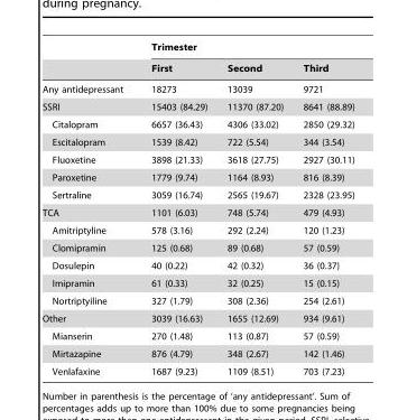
<table><thead><tr><td rowspan="2"></td><td colspan="3">Trimester</td></tr><tr><td>First</td><td>Second</td><td>Third</td></tr></thead><tbody><tr><td>Any antidepressant</td><td>18273</td><td>13039</td><td>9721</td></tr><tr><td>SSRI</td><td>15403 (84.29)</td><td>11370 (87.20)</td><td>8641 (88.89)</td></tr><tr><td>Citalopram</td><td>6657 (36.43)</td><td>4306 (33.02)</td><td>2850 (29.32)</td></tr><tr><td>Escitalopram</td><td>1539 (8.42)</td><td>722 (5.54)</td><td>344 (3.54)</td></tr><tr><td>Fluoxetine</td><td>3898 (21.33)</td><td>3618 (27.75)</td><td>2927 (30.11)</td></tr><tr><td>Paroxetine</td><td>1779 (9.74)</td><td>1164 (8.93)</td><td>816 (8.39)</td></tr><tr><td>Sertraline</td><td>3059 (16.74)</td><td>2565 (19.67)</td><td>2328 (23.95)</td></tr><tr><td>TCA</td><td>1101 (6.03)</td><td>748 (5.74)</td><td>479 (4.93)</td></tr><tr><td>Amitriptyline</td><td>578 (3.16)</td><td>292 (2.24)</td><td>120 (1.23)</td></tr><tr><td>Clomipramin</td><td>125 (0.68)</td><td>89 (0.68)</td><td>57 (0.59)</td></tr><tr><td>Dosulepin</td><td>40 (0.22)</td><td>42 (0.32)</td><td>36 (0.37)</td></tr><tr><td>Imipramin</td><td>61 (0.33)</td><td>32 (0.25)</td><td>15 (0.15)</td></tr><tr><td>Nortriptyiline</td><td>327 (1.79)</td><td>308 (2.36)</td><td>254 (2.61)</td></tr><tr><td>Other</td><td>3039 (16.63)</td><td>1655 (12.69)</td><td>934 (9.61)</td></tr><tr><td>Mianserin</td><td>270 (1.48)</td><td>113 (0.87)</td><td>57 (0.59)</td></tr><tr><td>Mirtazapine</td><td>876 (4.79)</td><td>348 (2.67)</td><td>142 (1.46)</td></tr><tr><td>Venlafaxine</td><td>1687 (9.23)</td><td>1109 (8.51)</td><td>703 (7.23)</td></tr></tbody></table>